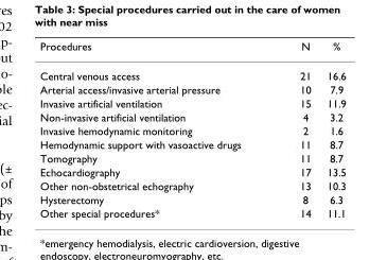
<table><thead><tr><td>Procedures</td><td>N</td><td>%</td></tr></thead><tbody><tr><td>Central venous access</td><td>21</td><td>16.6</td></tr><tr><td>Arterial access/invasive arterial pressure</td><td>10</td><td>7.9</td></tr><tr><td>Invasive artificial ventilation</td><td>15</td><td>11.9</td></tr><tr><td>Non-invasive artificial ventilation</td><td>4</td><td>3.2</td></tr><tr><td>Invasive hemodynamic monitoring</td><td>2</td><td>1.6</td></tr><tr><td>Hemodynamic support with vasoactive drugs</td><td>11</td><td>8.7</td></tr><tr><td>Tomography</td><td>11</td><td>8.7</td></tr><tr><td>Echocardiography</td><td>17</td><td>13.5</td></tr><tr><td>Other non-obstetrical echography</td><td>13</td><td>10.3</td></tr><tr><td>Hysterectomy</td><td>8</td><td>6.3</td></tr><tr><td>Other special procedures*</td><td>14</td><td>11.1</td></tr></tbody></table>